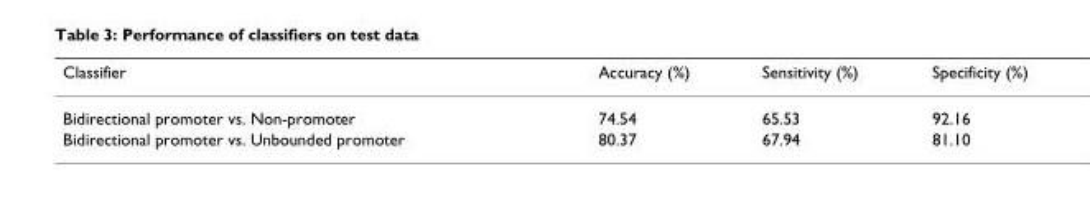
<table><thead><tr><td>Classifier</td><td>Accuracy (%)</td><td>Sensitivity (%)</td><td>Specificity (%)</td></tr></thead><tbody><tr><td>Bidirectional promoter vs. Non-promoter</td><td>74.54</td><td>65.53</td><td>92.16</td></tr><tr><td>Bidirectional promoter vs. Unbounded promoter</td><td>80.37</td><td>67.94</td><td>81.10</td></tr></tbody></table>